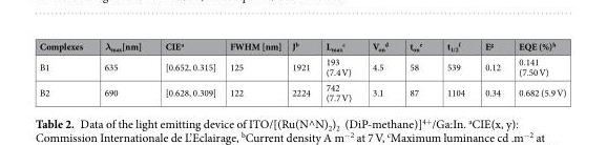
<table><thead><tr><td>Complexes</td><td>λ<sub>max</sub>[nm]</td><td>CIE<sup>a</sup></td><td>FWHM [nm]</td><td>J<sup>b</sup></td><td>L<sub>max</sub> <sup>c</sup></td><td>V<sub>on</sub> <sup>d</sup></td><td>t<sub>on</sub> <sup>e</sup></td><td>t<sub>1/2</sub> <sup>f</sup></td><td>E<sup>g</sup></td><td>EQE (%)<sup>h</sup></td></tr></thead><tbody><tr><td>B1</td><td>635</td><td>[0.652, 0.315]</td><td>125</td><td>1921</td><td>193 (7.4 V)</td><td>4.5</td><td>58</td><td>539</td><td>0.12</td><td>0.141 (7.50 V)</td></tr><tr><td>B2</td><td>690</td><td>[0.628, 0.309]</td><td>122</td><td>2224</td><td>742 (7.7 V)</td><td>3.1</td><td>87</td><td>1104</td><td>0.34</td><td>0.682 (5.9 V)</td></tr></tbody></table>